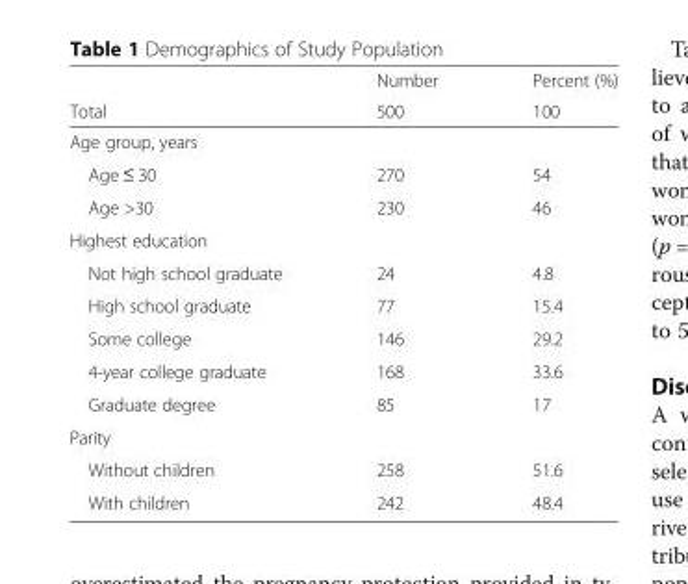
<table><thead><tr><td rowspan="2">Total</td><td rowspan="2">Number 500</td><td rowspan="2">Percent (%) 100</td></tr><tr></tr></thead><tbody><tr><td colspan="3">Age group, years</td></tr><tr><td>Age ≤ 30</td><td>270</td><td>54</td></tr><tr><td>Age &gt;30</td><td>230</td><td>46</td></tr><tr><td colspan="3">Highest education</td></tr><tr><td>Not high school graduate</td><td>24</td><td>4.8</td></tr><tr><td>High school graduate</td><td>77</td><td>15.4</td></tr><tr><td>Some college</td><td>146</td><td>29.2</td></tr><tr><td>4-year college graduate</td><td>168</td><td>33.6</td></tr><tr><td>Graduate degree</td><td>85</td><td>17</td></tr><tr><td colspan="3">Parity</td></tr><tr><td>Without children</td><td>258</td><td>51.6</td></tr><tr><td>With children</td><td>242</td><td>48.4</td></tr></tbody></table>